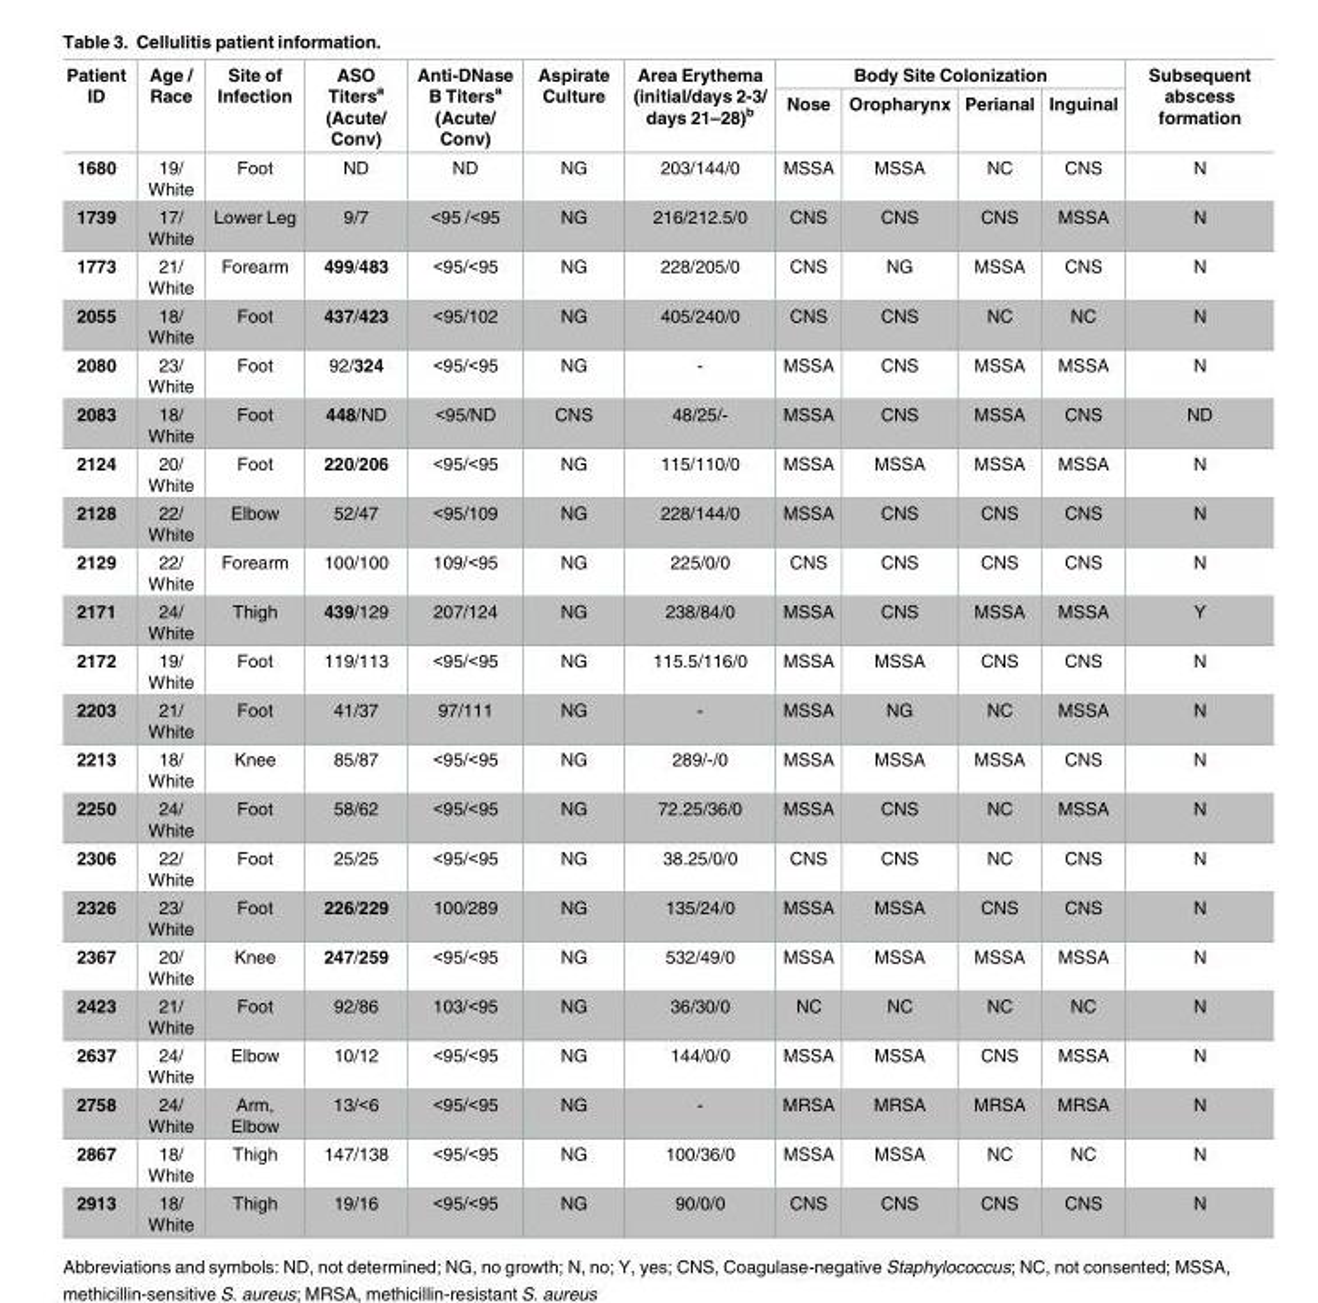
<table><thead><tr><td rowspan="2">Patient ID</td><td rowspan="2">Age / Race</td><td rowspan="2">Site of Infection</td><td rowspan="2">ASO Titers<sup>a</sup> (Acute/ Conv)</td><td rowspan="2">Anti-DNase B Titers<sup>a</sup> (Acute/ Conv)</td><td rowspan="2">Aspirate Culture</td><td rowspan="2">Area Erythema (initial/days 2-3/ days 21–28)<sup>b</sup></td><td colspan="4">Body Site Colonization</td><td rowspan="2">Subsequent abscess formation</td></tr><tr><td>Nose</td><td>Oropharynx</td><td>Perianal</td><td>Inguinal</td></tr></thead><tbody><tr><td>1680</td><td>19/ White</td><td>Foot</td><td>ND</td><td>ND</td><td>NG</td><td>203/144/0</td><td>MSSA</td><td>MSSA</td><td>NC</td><td>CNS</td><td>N</td></tr><tr><td>1739</td><td>17/ White</td><td>Lower Leg</td><td>9/7</td><td>&lt;95 /&lt;95</td><td>NG</td><td>216/212.5/0</td><td>CNS</td><td>CNS</td><td>CNS</td><td>MSSA</td><td>N</td></tr><tr><td>1773</td><td>21/ White</td><td>Forearm</td><td>499/483</td><td>&lt;95/&lt;95</td><td>NG</td><td>228/205/0</td><td>CNS</td><td>NG</td><td>MSSA</td><td>CNS</td><td>N</td></tr><tr><td>2055</td><td>18/ White</td><td>Foot</td><td>437/423</td><td>&lt;95/102</td><td>NG</td><td>405/240/0</td><td>CNS</td><td>CNS</td><td>NC</td><td>NC</td><td>N</td></tr><tr><td>2080</td><td>23/ White</td><td>Foot</td><td>92/324</td><td>&lt;95/&lt;95</td><td>NG</td><td>-</td><td>MSSA</td><td>CNS</td><td>MSSA</td><td>MSSA</td><td>N</td></tr><tr><td>2083</td><td>18/ White</td><td>Foot</td><td>448/ND</td><td>&lt;95/ND</td><td>CNS</td><td>48/25/-</td><td>MSSA</td><td>CNS</td><td>MSSA</td><td>CNS</td><td>ND</td></tr><tr><td>2124</td><td>20/ White</td><td>Foot</td><td>220/206</td><td>&lt;95/&lt;95</td><td>NG</td><td>115/110/0</td><td>MSSA</td><td>MSSA</td><td>MSSA</td><td>MSSA</td><td>N</td></tr><tr><td>2128</td><td>22/ White</td><td>Elbow</td><td>52/47</td><td>&lt;95/109</td><td>NG</td><td>228/144/0</td><td>MSSA</td><td>CNS</td><td>CNS</td><td>CNS</td><td>N</td></tr><tr><td>2129</td><td>22/ White</td><td>Forearm</td><td>100/100</td><td>109/&lt;95</td><td>NG</td><td>225/0/0</td><td>CNS</td><td>CNS</td><td>CNS</td><td>CNS</td><td>N</td></tr><tr><td>2171</td><td>24/ White</td><td>Thigh</td><td>439/129</td><td>207/124</td><td>NG</td><td>238/84/0</td><td>MSSA</td><td>CNS</td><td>MSSA</td><td>MSSA</td><td>Y</td></tr><tr><td>2172</td><td>19/ White</td><td>Foot</td><td>119/113</td><td>&lt;95/&lt;95</td><td>NG</td><td>115.5/116/0</td><td>MSSA</td><td>MSSA</td><td>CNS</td><td>CNS</td><td>N</td></tr><tr><td>2203</td><td>21/ White</td><td>Foot</td><td>41/37</td><td>97/111</td><td>NG</td><td>-</td><td>MSSA</td><td>NG</td><td>NC</td><td>MSSA</td><td>N</td></tr><tr><td>2213</td><td>18/ White</td><td>Knee</td><td>85/87</td><td>&lt;95/&lt;95</td><td>NG</td><td>289/-/0</td><td>MSSA</td><td>MSSA</td><td>MSSA</td><td>CNS</td><td>N</td></tr><tr><td>2250</td><td>24/ White</td><td>Foot</td><td>58/62</td><td>&lt;95/&lt;95</td><td>NG</td><td>72.25/36/0</td><td>MSSA</td><td>CNS</td><td>NC</td><td>MSSA</td><td>N</td></tr><tr><td>2306</td><td>22/ White</td><td>Foot</td><td>25/25</td><td>&lt;95/&lt;95</td><td>NG</td><td>38.25/0/0</td><td>CNS</td><td>CNS</td><td>NC</td><td>CNS</td><td>N</td></tr><tr><td>2326</td><td>23/ White</td><td>Foot</td><td>226/229</td><td>100/289</td><td>NG</td><td>135/24/0</td><td>MSSA</td><td>MSSA</td><td>CNS</td><td>CNS</td><td>N</td></tr><tr><td>2367</td><td>20/ White</td><td>Knee</td><td>247/259</td><td>&lt;95/&lt;95</td><td>NG</td><td>532/49/0</td><td>MSSA</td><td>MSSA</td><td>MSSA</td><td>MSSA</td><td>N</td></tr><tr><td>2423</td><td>21/ White</td><td>Foot</td><td>92/86</td><td>103/&lt;95</td><td>NG</td><td>36/30/0</td><td>NC</td><td>NC</td><td>NC</td><td>NC</td><td>N</td></tr><tr><td>2637</td><td>24/ White</td><td>Elbow</td><td>10/12</td><td>&lt;95/&lt;95</td><td>NG</td><td>144/0/0</td><td>MSSA</td><td>MSSA</td><td>CNS</td><td>MSSA</td><td>N</td></tr><tr><td>2758</td><td>24/ White</td><td>Arm, Elbow</td><td>13/&lt;6</td><td>&lt;95/&lt;95</td><td>NG</td><td>-</td><td>MRSA</td><td>MRSA</td><td>MRSA</td><td>MRSA</td><td>N</td></tr><tr><td>2867</td><td>18/ White</td><td>Thigh</td><td>147/138</td><td>&lt;95/&lt;95</td><td>NG</td><td>100/36/0</td><td>MSSA</td><td>MSSA</td><td>NC</td><td>NC</td><td>N</td></tr><tr><td>2913</td><td>18/ White</td><td>Thigh</td><td>19/16</td><td>&lt;95/&lt;95</td><td>NG</td><td>90/0/0</td><td>CNS</td><td>CNS</td><td>CNS</td><td>CNS</td><td>N</td></tr></tbody></table>